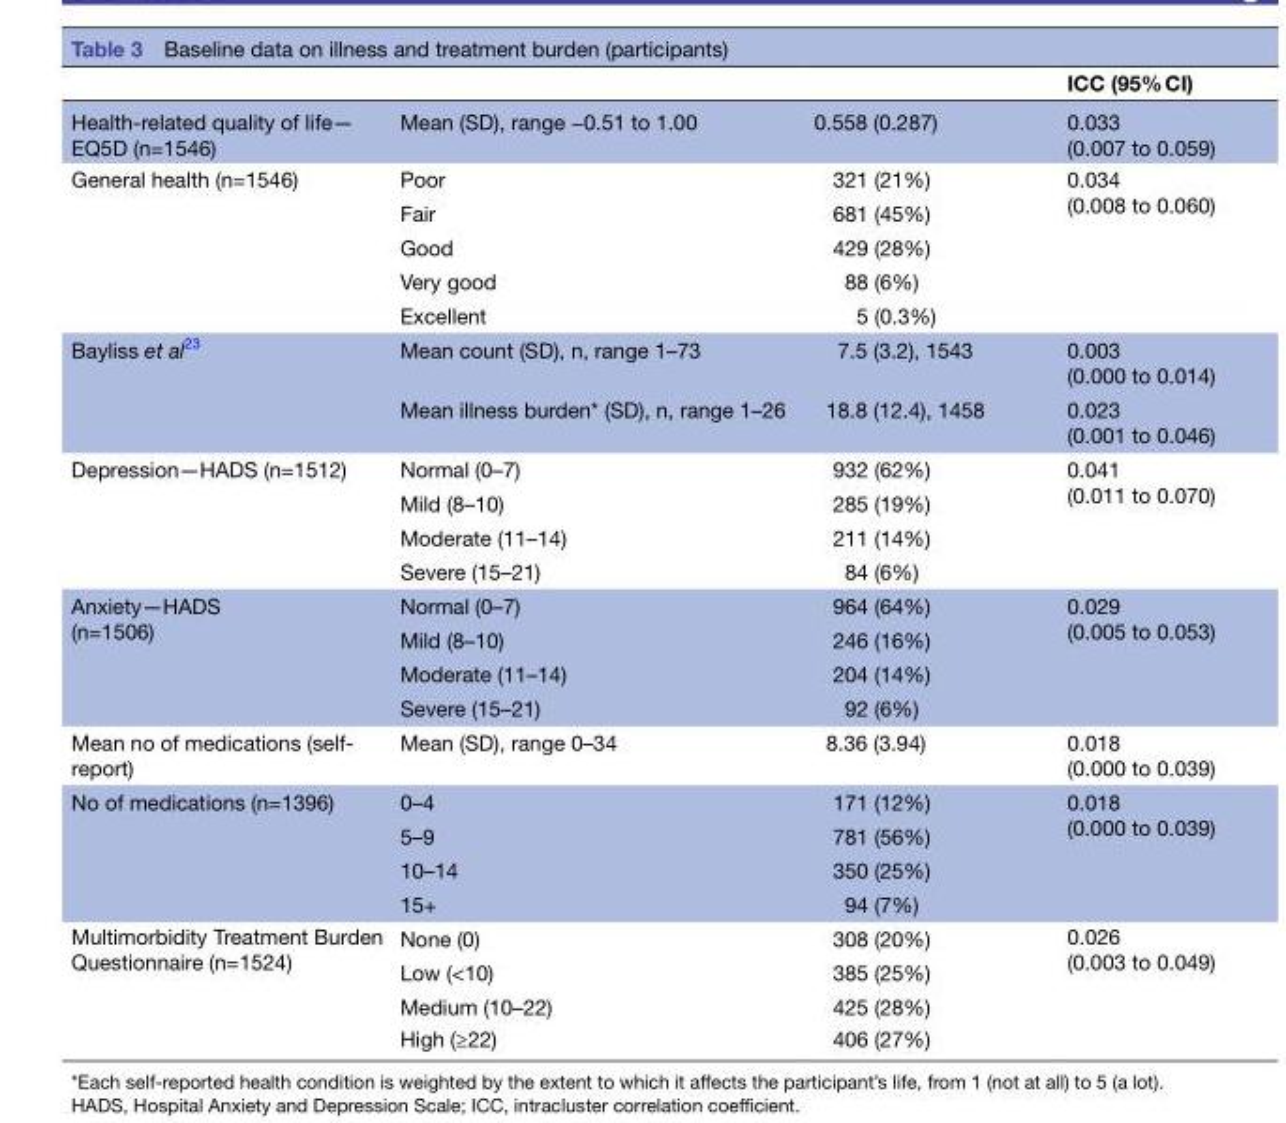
<table><thead><tr><td></td><td></td><td></td><td>ICC (95% CI)</td></tr></thead><tbody><tr><td>Health-related quality of life— EQ5D (n=1546)</td><td>Mean (SD), range −0.51 to 1.00</td><td>0.558 (0.287)</td><td>0.033 (0.007 to 0.059)</td></tr><tr><td rowspan="5">General health (n=1546)</td><td>Poor</td><td>321 (21%)</td><td rowspan="5">0.034 (0.008 to 0.060)</td></tr><tr><td>Fair</td><td>681 (45%)</td></tr><tr><td>Good</td><td>429 (28%)</td></tr><tr><td>Very good</td><td>88 (6%)</td></tr><tr><td>Excellent</td><td>5 (0.3%)</td></tr><tr><td rowspan="2">Bayliss et al23</td><td>Mean count (SD), n, range 1–73</td><td>7.5 (3.2), 1543</td><td>0.003 (0.000 to 0.014)</td></tr><tr><td>Mean illness burden* (SD), n, range 1–26</td><td>18.8 (12.4), 1458</td><td>0.023 (0.001 to 0.046)</td></tr><tr><td rowspan="4">Depression—HADS (n=1512)</td><td>Normal (0–7)</td><td>932 (62%)</td><td rowspan="4">0.041 (0.011 to 0.070)</td></tr><tr><td>Mild (8–10)</td><td>285 (19%)</td></tr><tr><td>Moderate (11–14)</td><td>211 (14%)</td></tr><tr><td>Severe (15–21)</td><td>84 (6%)</td></tr><tr><td rowspan="4">Anxiety—HADS (n=1506)</td><td>Normal (0–7)</td><td>964 (64%)</td><td rowspan="4">0.029 (0.005 to 0.053)</td></tr><tr><td>Mild (8–10)</td><td>246 (16%)</td></tr><tr><td>Moderate (11–14)</td><td>204 (14%)</td></tr><tr><td>Severe (15–21)</td><td>92 (6%)</td></tr><tr><td>Mean no of medications (self- report)</td><td>Mean (SD), range 0–34</td><td>8.36 (3.94)</td><td>0.018 (0.000 to 0.039)</td></tr><tr><td rowspan="4">No of medications (n=1396)</td><td>0–4</td><td>171 (12%)</td><td rowspan="4">0.018 (0.000 to 0.039)</td></tr><tr><td>5–9</td><td>781 (56%)</td></tr><tr><td>10–14</td><td>350 (25%)</td></tr><tr><td>15+</td><td>94 (7%)</td></tr><tr><td rowspan="4">Multimorbidity Treatment Burden Questionnaire (n=1524)</td><td>None (0)</td><td>308 (20%)</td><td rowspan="4">0.026 (0.003 to 0.049)</td></tr><tr><td>Low (&lt;10)</td><td>385 (25%)</td></tr><tr><td>Medium (10–22)</td><td>425 (28%)</td></tr><tr><td>High (≥22)</td><td>406 (27%)</td></tr></tbody></table>